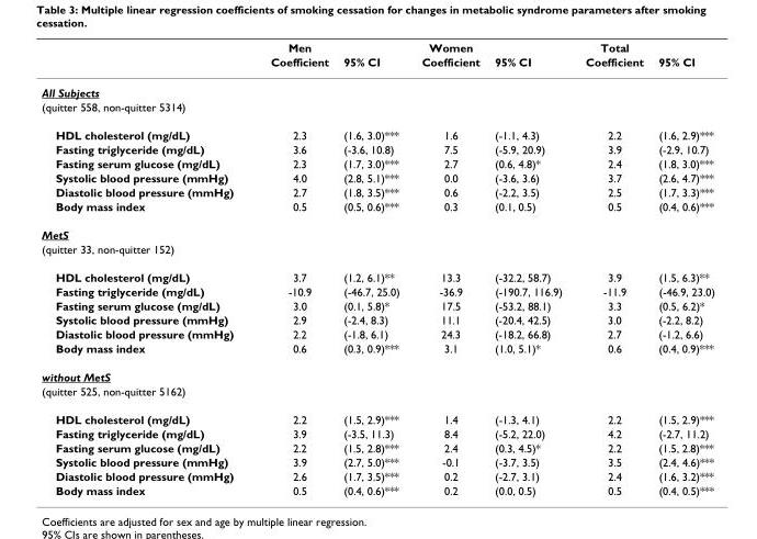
<table><thead><tr><td rowspan="2"></td><td rowspan="2">Men Coefficient</td><td rowspan="2">95% CI</td><td rowspan="2">Women Coefficient</td><td rowspan="2">95% CI</td><td rowspan="2">Total Coefficient</td><td rowspan="2">95% CI</td></tr><tr></tr></thead><tbody><tr><td colspan="7">All Subjects</td></tr><tr><td colspan="7">(quitter 558, non-quitter 5314)</td></tr><tr><td>HDL cholesterol (mg/dL)</td><td>2.3</td><td>(1.6, 3.0)***</td><td>1.6</td><td>(-1.1, 4.3)</td><td>2.2</td><td>(1.6, 2.9)***</td></tr><tr><td>Fasting triglyceride (mg/dL)</td><td>3.6</td><td>(-3.6, 10.8)</td><td>7.5</td><td>(-5.9, 20.9)</td><td>3.9</td><td>(-2.9, 10.7)</td></tr><tr><td>Fasting serum glucose (mg/dL)</td><td>2.3</td><td>(1.7, 3.0)***</td><td>2.7</td><td>(0.6, 4.8)*</td><td>2.4</td><td>(1.8, 3.0)***</td></tr><tr><td>Systolic blood pressure (mmHg)</td><td>4.0</td><td>(2.8, 5.1)***</td><td>0.0</td><td>(-3.6, 3.6)</td><td>3.7</td><td>(2.6, 4.7)***</td></tr><tr><td>Diastolic blood pressure (mmHg)</td><td>2.7</td><td>(1.8, 3.5)***</td><td>0.6</td><td>(-2.2, 3.5)</td><td>2.5</td><td>(1.7, 3.3)***</td></tr><tr><td>Body mass index</td><td>0.5</td><td>(0.5, 0.6)***</td><td>0.3</td><td>(0.1, 0.5)</td><td>0.5</td><td>(0.4, 0.6)***</td></tr><tr><td colspan="7">MetS</td></tr><tr><td colspan="7">(quitter 33, non-quitter 152)</td></tr><tr><td>HDL cholesterol (mg/dL)</td><td>3.7</td><td>(1.2, 6.1)**</td><td>13.3</td><td>(-32.2, 58.7)</td><td>3.9</td><td>(1.5, 6.3)**</td></tr><tr><td>Fasting triglyceride (mg/dL)</td><td>-10.9</td><td>(-46.7, 25.0)</td><td>-36.9</td><td>(-190.7, 116.9)</td><td>-11.9</td><td>(-46.9, 23.0)</td></tr><tr><td>Fasting serum glucose (mg/dL)</td><td>3.0</td><td>(0.1, 5.8)*</td><td>17.5</td><td>(-53.2, 88.1)</td><td>3.3</td><td>(0.5, 6.2)*</td></tr><tr><td>Systolic blood pressure (mmHg)</td><td>2.9</td><td>(-2.4, 8.3)</td><td>11.1</td><td>(-20.4, 42.5)</td><td>3.0</td><td>(-2.2, 8.2)</td></tr><tr><td>Diastolic blood pressure (mmHg)</td><td>2.2</td><td>(-1.8, 6.1)</td><td>24.3</td><td>(-18.2, 66.8)</td><td>2.7</td><td>(-1.2, 6.6)</td></tr><tr><td>Body mass index</td><td>0.6</td><td>(0.3, 0.9)***</td><td>3.1</td><td>(1.0, 5.1)*</td><td>0.6</td><td>(0.4, 0.9)***</td></tr><tr><td colspan="7">without MetS</td></tr><tr><td colspan="7">(quitter 525, non-quitter 5162)</td></tr><tr><td>HDL cholesterol (mg/dL)</td><td>2.2</td><td>(1.5, 2.9)***</td><td>1.4</td><td>(-1.3, 4.1)</td><td>2.2</td><td>(1.5, 2.9)***</td></tr><tr><td>Fasting triglyceride (mg/dL)</td><td>3.9</td><td>(-3.5, 11.3)</td><td>8.4</td><td>(-5.2, 22.0)</td><td>4.2</td><td>(-2.7, 11.2)</td></tr><tr><td>Fasting serum glucose (mg/dL)</td><td>2.2</td><td>(1.5, 2.8)***</td><td>2.4</td><td>(0.3, 4.5)*</td><td>2.2</td><td>(1.5, 2.8)***</td></tr><tr><td>Systolic blood pressure (mmHg)</td><td>3.9</td><td>(2.7, 5.0)***</td><td>-0.1</td><td>(-3.7, 3.5)</td><td>3.5</td><td>(2.4, 4.6)***</td></tr><tr><td>Diastolic blood pressure (mmHg)</td><td>2.6</td><td>(1.7, 3.5)***</td><td>0.2</td><td>(-2.7, 3.1)</td><td>2.4</td><td>(1.6, 3.2)***</td></tr><tr><td>Body mass index</td><td>0.5</td><td>(0.4, 0.6)***</td><td>0.2</td><td>(0.0, 0.5)</td><td>0.5</td><td>(0.4, 0.5)***</td></tr></tbody></table>